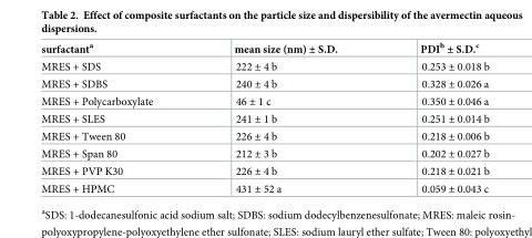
<table><thead><tr><td>surfactant<sup>a</sup></td><td>mean size (nm) ± S.D.</td><td>PDI<sup>b</sup> ± S.D.<sup>c</sup></td></tr></thead><tbody><tr><td>MRES + SDS</td><td>222 ± 4 b</td><td>0.253 ± 0.018 b</td></tr><tr><td>MRES + SDBS</td><td>240 ± 4 b</td><td>0.328 ± 0.026 a</td></tr><tr><td>MRES + Polycarboxylate</td><td>46 ± 1 c</td><td>0.350 ± 0.046 a</td></tr><tr><td>MRES + SLES</td><td>241 ± 1 b</td><td>0.251 ± 0.014 b</td></tr><tr><td>MRES + Tween 80</td><td>226 ± 4 b</td><td>0.218 ± 0.006 b</td></tr><tr><td>MRES + Span 80</td><td>212 ± 3 b</td><td>0.202 ± 0.027 b</td></tr><tr><td>MRES + PVP K30</td><td>226 ± 4 b</td><td>0.218 ± 0.021 b</td></tr><tr><td>MRES + HPMC</td><td>431 ± 52 a</td><td>0.059 ± 0.043 c</td></tr></tbody></table>